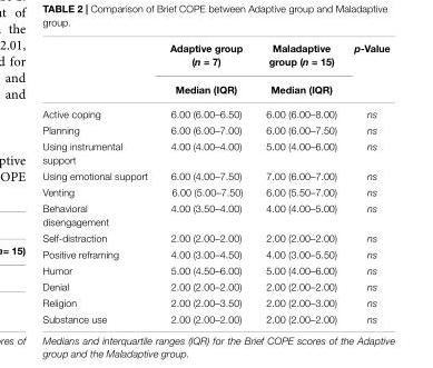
<table><thead><tr><td rowspan="2"></td><td rowspan="2">Adaptive group (n = 7) Median (IQR)</td><td rowspan="2">Maladaptive group (n = 15) Median (IQR)</td><td rowspan="2">p-Value</td></tr><tr></tr></thead><tbody><tr><td>Active coping</td><td>6.00 (6.00–6.50)</td><td>6.00 (6.00–8.00)</td><td>ns</td></tr><tr><td>Planning</td><td>6.00 (6.00–7.00)</td><td>6.00 (6.00–7.50)</td><td>ns</td></tr><tr><td>Using instrumental support</td><td>4.00 (4.00–4.00)</td><td>5.00 (4.00–6.00)</td><td>ns</td></tr><tr><td>Using emotional support</td><td>6.00 (4.00–7.50)</td><td>7.00 (6.00–7.00)</td><td>ns</td></tr><tr><td>Venting</td><td>6.00 (5.00–7.50)</td><td>6.00 (5.50–7.00)</td><td>ns</td></tr><tr><td>Behavioral disengagement</td><td>4.00 (3.50–4.00)</td><td>4.00 (4.00–5.00)</td><td>ns</td></tr><tr><td>Self-distraction</td><td>2.00 (2.00–2.00)</td><td>2.00 (2.00–2.00)</td><td>ns</td></tr><tr><td>Positive reframing</td><td>4.00 (3.00–4.50)</td><td>4.00 (3.00–5.50)</td><td>ns</td></tr><tr><td>Humor</td><td>5.00 (4.50–6.00)</td><td>5.00 (4.00–6.00)</td><td>ns</td></tr><tr><td>Denial</td><td>2.00 (2.00–2.00)</td><td>2.00 (2.00–2.00)</td><td>ns</td></tr><tr><td>Religion</td><td>2.00 (2.00–3.50)</td><td>2.00 (2.00–3.00)</td><td>ns</td></tr><tr><td>Substance use</td><td>2.00 (2.00–2.00)</td><td>2.00 (2.00–2.00)</td><td>ns</td></tr></tbody></table>